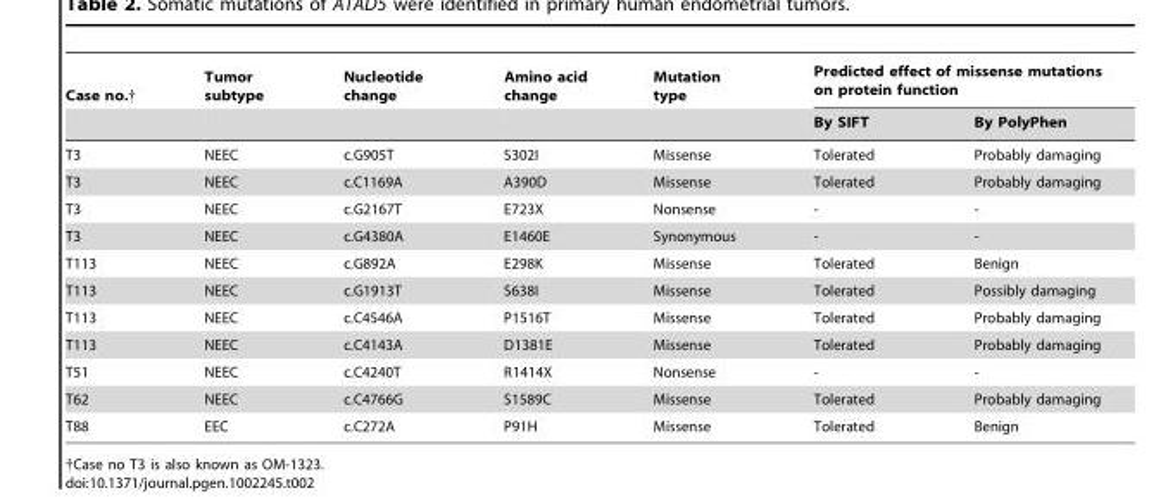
<table><thead><tr><td rowspan="2">Case no.†</td><td rowspan="2">Tumor subtype</td><td rowspan="2">Nucleotide change</td><td rowspan="2">Amino acid change</td><td rowspan="2">Mutation type</td><td colspan="2">Predicted effect of missense mutations on protein function</td></tr><tr><td>By SIFT</td><td>By PolyPhen</td></tr></thead><tbody><tr><td>T3</td><td>NEEC</td><td>c.G905T</td><td>S302I</td><td>Missense</td><td>Tolerated</td><td>Probably damaging</td></tr><tr><td>T3</td><td>NEEC</td><td>c.C1169A</td><td>A390D</td><td>Missense</td><td>Tolerated</td><td>Probably damaging</td></tr><tr><td>T3</td><td>NEEC</td><td>c.G2167T</td><td>E723X</td><td>Nonsense</td><td>-</td><td>-</td></tr><tr><td>T3</td><td>NEEC</td><td>c.G4380A</td><td>E1460E</td><td>Synonymous</td><td>-</td><td>-</td></tr><tr><td>T113</td><td>NEEC</td><td>c.G892A</td><td>E298K</td><td>Missense</td><td>Tolerated</td><td>Benign</td></tr><tr><td>T113</td><td>NEEC</td><td>c.G1913T</td><td>S638I</td><td>Missense</td><td>Tolerated</td><td>Possibly damaging</td></tr><tr><td>T113</td><td>NEEC</td><td>c.C4546A</td><td>P1516T</td><td>Missense</td><td>Tolerated</td><td>Probably damaging</td></tr><tr><td>T113</td><td>NEEC</td><td>c.C4143A</td><td>D1381E</td><td>Missense</td><td>Tolerated</td><td>Probably damaging</td></tr><tr><td>T51</td><td>NEEC</td><td>c.C4240T</td><td>R1414X</td><td>Nonsense</td><td>-</td><td>-</td></tr><tr><td>T62</td><td>NEEC</td><td>c.C4766G</td><td>S1589C</td><td>Missense</td><td>Tolerated</td><td>Probably damaging</td></tr><tr><td>T88</td><td>EEC</td><td>c.C272A</td><td>P91H</td><td>Missense</td><td>Tolerated</td><td>Benign</td></tr></tbody></table>